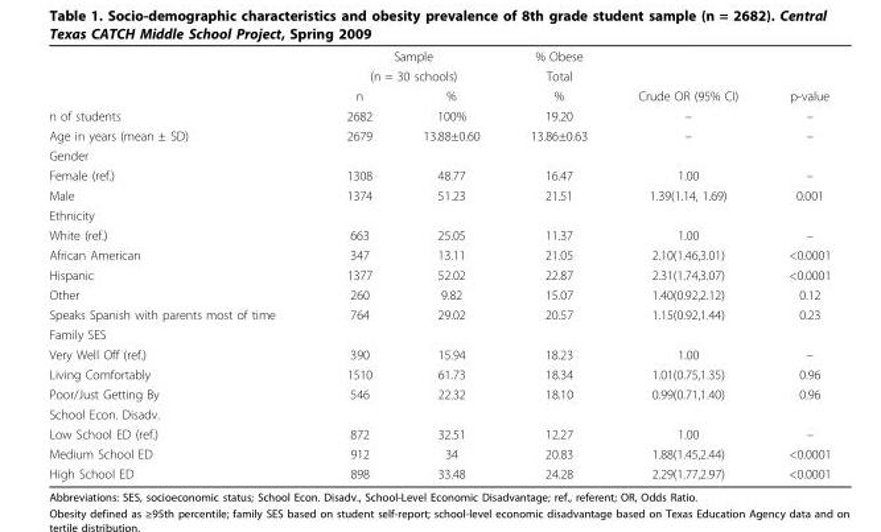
<table><thead><tr><td rowspan="3"></td><td rowspan="2" colspan="2">Sample (n = 30 schools)</td><td rowspan="3">% Obese Total %</td><td></td><td></td></tr><tr><td colspan="2"></td></tr><tr><td>n</td><td>%</td><td>Crude OR (95% CI)</td><td>p-value</td></tr></thead><tbody><tr><td>n of students</td><td>2682</td><td>100%</td><td>19.20</td><td>–</td><td>–</td></tr><tr><td>Age in years (mean ± SD)</td><td>2679</td><td>13.88±0.60</td><td>13.86±0.63</td><td>–</td><td>–</td></tr><tr><td colspan="6">Gender</td></tr><tr><td>Female (ref.)</td><td>1308</td><td>48.77</td><td>16.47</td><td>1.00</td><td>–</td></tr><tr><td>Male</td><td>1374</td><td>51.23</td><td>21.51</td><td>1.39(1.14, 1.69)</td><td>0.001</td></tr><tr><td colspan="6">Ethnicity</td></tr><tr><td>White (ref.)</td><td>663</td><td>25.05</td><td>11.37</td><td>1.00</td><td>–</td></tr><tr><td>African American</td><td>347</td><td>13.11</td><td>21.05</td><td>2.10(1.46,3.01)</td><td>&lt;0.0001</td></tr><tr><td>Hispanic</td><td>1377</td><td>52.02</td><td>22.87</td><td>2.31(1.74,3.07)</td><td>&lt;0.0001</td></tr><tr><td>Other</td><td>260</td><td>9.82</td><td>15.07</td><td>1.40(0.92,2.12)</td><td>0.12</td></tr><tr><td>Speaks Spanish with parents most of time</td><td>764</td><td>29.02</td><td>20.57</td><td>1.15(0.92,1.44)</td><td>0.23</td></tr><tr><td colspan="6">Family SES</td></tr><tr><td>Very Well Off (ref.)</td><td>390</td><td>15.94</td><td>18.23</td><td>1.00</td><td>–</td></tr><tr><td>Living Comfortably</td><td>1510</td><td>61.73</td><td>18.34</td><td>1.01(0.75,1.35)</td><td>0.96</td></tr><tr><td>Poor/Just Getting By</td><td>546</td><td>22.32</td><td>18.10</td><td>0.99(0.71,1.40)</td><td>0.96</td></tr><tr><td colspan="6">School Econ. Disadv.</td></tr><tr><td>Low School ED (ref.)</td><td>872</td><td>32.51</td><td>12.27</td><td>1.00</td><td>–</td></tr><tr><td>Medium School ED</td><td>912</td><td>34</td><td>20.83</td><td>1.88(1.45,2.44)</td><td>&lt;0.0001</td></tr><tr><td>High School ED</td><td>898</td><td>33.48</td><td>24.28</td><td>2.29(1.77,2.97)</td><td>&lt;0.0001</td></tr></tbody></table>